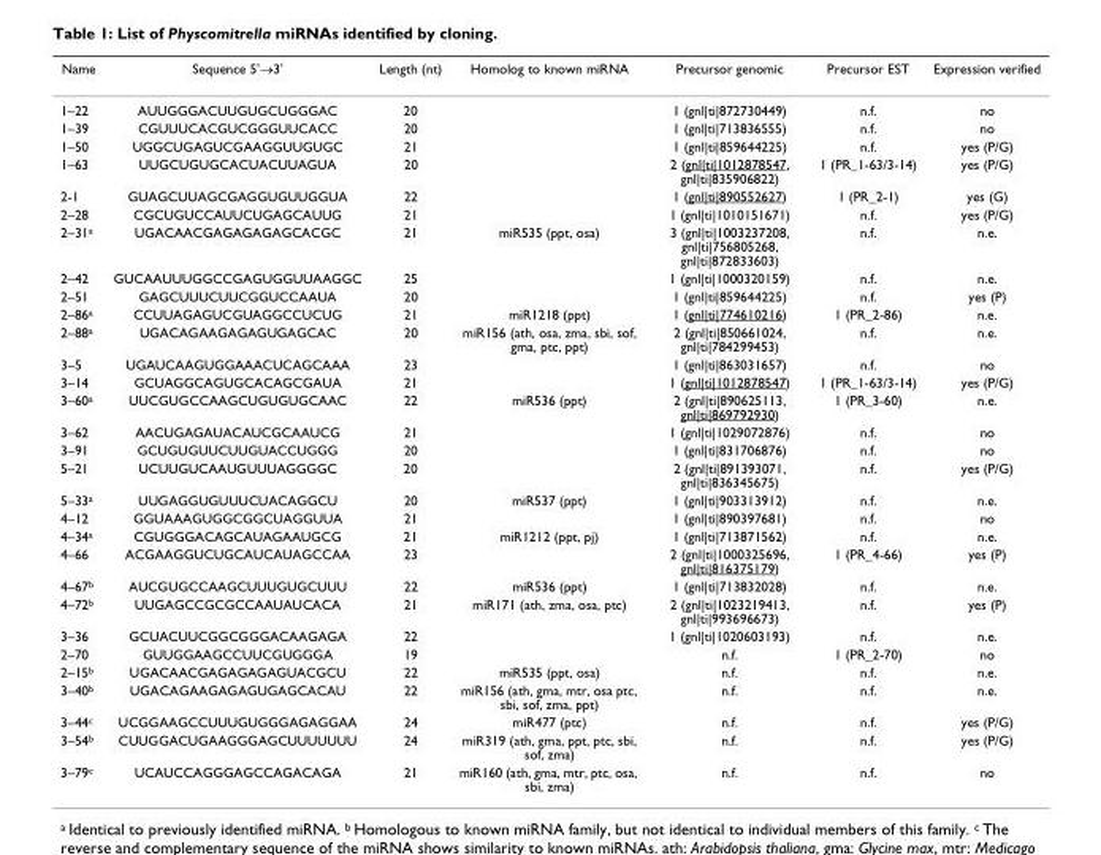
<table><thead><tr><td>Name</td><td>Sequence 5&#x27;→3&#x27;</td><td>Length (nt)</td><td>Homolog to known miRNA</td><td>Precursor genomic</td><td>Precursor EST</td><td>Expression verified</td></tr></thead><tbody><tr><td>1–22</td><td>AUUGGGACUUGUGCUGGGAC</td><td>20</td><td></td><td>1 (gnl|ti|872730449)</td><td>n.f.</td><td>no</td></tr><tr><td>1–39</td><td>CGUUUCACGUCGGGUUCACC</td><td>20</td><td></td><td>1 (gnl|ti|713836555)</td><td>n.f.</td><td>no</td></tr><tr><td>1–50</td><td>UGGCUGAGUCGAAGGUUGUGC</td><td>21</td><td></td><td>1 (gnl|ti|859644225)</td><td>n.f.</td><td>yes (P/G)</td></tr><tr><td>1–63</td><td>UUGCUGUGCACUACUUAGUA</td><td>20</td><td></td><td>2 (gnl|ti|1012878547, gnl|ti|835906822)</td><td>1 (PR_1-63/3-14)</td><td>yes (P/G)</td></tr><tr><td>2-1</td><td>GUAGCUUAGCGAGGUGUUGGUA</td><td>22</td><td></td><td>1 (gnl|ti|890552627)</td><td>1 (PR_2-1)</td><td>yes (G)</td></tr><tr><td>2–28</td><td>CGCUGUCCAUUCUGAGCAUUG</td><td>21</td><td></td><td>1 (gnl|ti|1010151671)</td><td>n.f.</td><td>yes (P/G)</td></tr><tr><td>2–31a</td><td>UGACAACGAGAGAGAGCACGC</td><td>21</td><td>miR535 (ppt, osa)</td><td>3 (gnl|ti|1003237208, gnl|ti|756805268, gnl|ti|872833603)</td><td>n.f.</td><td>n.e.</td></tr><tr><td>2–42</td><td>GUCAAUUUGGCCGAGUGGUUAAGGC</td><td>25</td><td></td><td>1 (gnl|ti|1000320159)</td><td>n.f.</td><td>n.e.</td></tr><tr><td>2–51</td><td>GAGCUUUCUUCGGUCCAAUA</td><td>20</td><td></td><td>1 (gnl|ti|859644225)</td><td>n.f.</td><td>yes (P)</td></tr><tr><td>2–86a</td><td>CCUUAGAGUCGUAGGCCUCUG</td><td>21</td><td>miR1218 (ppt)</td><td>1 (gnl|ti|774610216)</td><td>1 (PR_2-86)</td><td>n.e.</td></tr><tr><td>2–88a</td><td>UGACAGAAGAGAGUGAGCAC</td><td>20</td><td>miR156 (ath, osa, zma, sbi, sof, gma, ptc, ppt)</td><td>2 (gnl|ti|850661024, gnl|ti|784299453)</td><td>n.f.</td><td>n.e.</td></tr><tr><td>3–5</td><td>UGAUCAAGUGGAAACUCAGCAAA</td><td>23</td><td></td><td>1 (gnl|ti|863031657)</td><td>n.f.</td><td>no</td></tr><tr><td>3–14</td><td>GCUAGGCAGUGCACAGCGAUA</td><td>21</td><td></td><td>1 (gnl|ti|1012878547)</td><td>1 (PR_1-63/3-14)</td><td>yes (P/G)</td></tr><tr><td>3–60a</td><td>UUCGUGCCAAGCUGUGUGCAAC</td><td>22</td><td>miR536 (ppt)</td><td>2 (gnl|ti|890625113, gnl|ti|869792930)</td><td>1 (PR_3-60)</td><td>n.e.</td></tr><tr><td>3–62</td><td>AACUGAGAUACAUCGCAAUCG</td><td>21</td><td></td><td>1 (gnl|ti|1029072876)</td><td>n.f.</td><td>no</td></tr><tr><td>3–91</td><td>GCUGUGUUCUUGUACCUGGG</td><td>20</td><td></td><td>1 (gnl|ti|831706876)</td><td>n.f.</td><td>no</td></tr><tr><td>5–21</td><td>UCUUGUCAAUGUUUAGGGGC</td><td>20</td><td></td><td>2 (gnl|ti|891393071, gnl|ti|836345675)</td><td>n.f.</td><td>yes (P/G)</td></tr><tr><td>5–33a</td><td>UUGAGGUGUUUCUACAGGCU</td><td>20</td><td>miR537 (ppt)</td><td>1 (gnl|ti|903313912)</td><td>n.f.</td><td>n.e.</td></tr><tr><td>4–12</td><td>GGUAAAGUGGCGGCUAGGUUA</td><td>21</td><td></td><td>1 (gnl|ti|890397681)</td><td>n.f.</td><td>no</td></tr><tr><td>4–34a</td><td>CGUGGGACAGCAUAGAAUGCG</td><td>21</td><td>miR1212 (ppt, pj)</td><td>1 (gnl|ti|713871562)</td><td>n.f.</td><td>n.e.</td></tr><tr><td>4–66</td><td>ACGAAGGUCUGCAUCAUAGCCAA</td><td>23</td><td></td><td>2 (gnl|ti|1000325696, gnl|ti|816375179)</td><td>1 (PR_4-66)</td><td>yes (P)</td></tr><tr><td>4–67b</td><td>AUCGUGCCAAGCUUUGUGCUUU</td><td>22</td><td>miR536 (ppt)</td><td>1 (gnl|ti|713832028)</td><td>n.f.</td><td>n.e.</td></tr><tr><td>4–72b</td><td>UUGAGCCGCGCCAAUAUCACA</td><td>21</td><td>miR171 (ath, zma, osa, ptc)</td><td>2 (gnl|ti|1023219413, gnl|ti|993696673)</td><td>n.f.</td><td>yes (P)</td></tr><tr><td>3–36</td><td>GCUACUUCGGCGGGACAAGAGA</td><td>22</td><td></td><td>1 (gnl|ti|1020603193)</td><td>n.f.</td><td>n.e.</td></tr><tr><td>2–70</td><td>GUUGGAAGCCUUCGUGGGA</td><td>19</td><td></td><td>n.f.</td><td>1 (PR_2-70)</td><td>no</td></tr><tr><td>2–15b</td><td>UGACAACGAGAGAGAGUACGCU</td><td>22</td><td>miR535 (ppt, osa)</td><td>n.f.</td><td>n.f.</td><td>n.e.</td></tr><tr><td>3–40b</td><td>UGACAGAAGAGAGUGAGCACAU</td><td>22</td><td>miR156 (ath, gma, mtr, osa ptc, sbi, sof, zma, ppt)</td><td>n.f.</td><td>n.f.</td><td>n.e.</td></tr><tr><td>3–44c</td><td>UCGGAAGCCUUUGUGGGAGAGGAA</td><td>24</td><td>miR477 (ptc)</td><td>n.f.</td><td>n.f.</td><td>yes (P/G)</td></tr><tr><td>3–54b</td><td>CUUGGACUGAAGGGAGCUUUUUUU</td><td>24</td><td>miR319 (ath, gma, ppt, ptc, sbi, sof, zma)</td><td>n.f.</td><td>n.f.</td><td>yes (P/G)</td></tr><tr><td>3–79c</td><td>UCAUCCAGGGAGCCAGACAGA</td><td>21</td><td>miR160 (ath, gma, mtr, ptc, osa, sbi, zma)</td><td>n.f.</td><td>n.f.</td><td>no</td></tr></tbody></table>